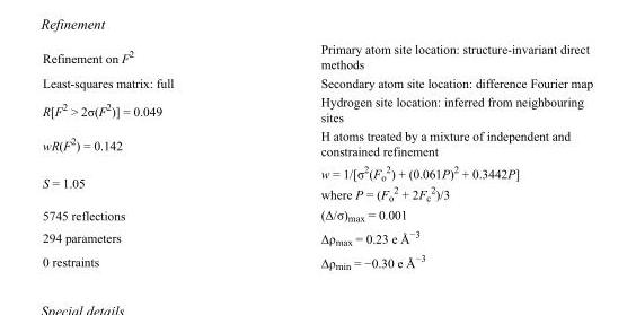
<table><tbody><tr><td>Refinement on F<sup>2</sup></td><td>Primary atom site location: structure-invariant direct methods</td></tr><tr><td>Least-squares matrix: full</td><td>Secondary atom site location: difference Fourier map</td></tr><tr><td>R[F<sup>2</sup> &gt; 2σ(F<sup>2</sup>)] = 0.049</td><td>Hydrogen site location: inferred from neighbouring sites</td></tr><tr><td>wR(F<sup>2</sup>) = 0.142</td><td>H atoms treated by a mixture of independent and constrained refinement</td></tr><tr><td>S = 1.05</td><td>w = 1/[σ<sup>2</sup>(F<sub>o</sub> <sup>2</sup>) + (0.061P)<sup>2</sup> + 0.3442P] where P = (F<sub>o</sub> <sup>2</sup> + 2F<sub>c</sub> <sup>2</sup>)/3</td></tr><tr><td>5745 reflections</td><td>(Δ/σ)<sub>max</sub> = 0.001</td></tr><tr><td>294 parameters</td><td>Δρ<sub>max</sub> = 0.23 e Å<sup>−3</sup></td></tr><tr><td>0 restraints</td><td>Δρ<sub>min</sub> = −0.30 e Å<sup>−3</sup></td></tr></tbody></table>